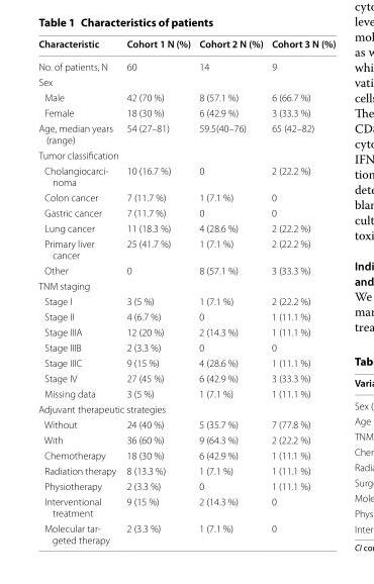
<table><thead><tr><td>Characteristic</td><td>Cohort 1 N (%)</td><td>Cohort 2 N (%)</td><td>Cohort 3 N (%)</td></tr></thead><tbody><tr><td>No. of patients, N</td><td>60</td><td>14</td><td>9</td></tr><tr><td colspan="4">Sex</td></tr><tr><td>Male</td><td>42 (70 %)</td><td>8 (57.1 %)</td><td>6 (66.7 %)</td></tr><tr><td>Female</td><td>18 (30 %)</td><td>6 (42.9 %)</td><td>3 (33.3 %)</td></tr><tr><td>Age, median years (range)</td><td>54 (27–81)</td><td>59.5(40–76)</td><td>65 (42–82)</td></tr><tr><td colspan="4">Tumor classification</td></tr><tr><td>Cholangiocarci- noma</td><td>10 (16.7 %)</td><td>0</td><td>2 (22.2 %)</td></tr><tr><td>Colon cancer</td><td>7 (11.7 %)</td><td>1 (7.1 %)</td><td>0</td></tr><tr><td>Gastric cancer</td><td>7 (11.7 %)</td><td>0</td><td>0</td></tr><tr><td>Lung cancer</td><td>11 (18.3 %)</td><td>4 (28.6 %)</td><td>2 (22.2 %)</td></tr><tr><td>Primary liver cancer</td><td>25 (41.7 %)</td><td>1 (7.1 %)</td><td>2 (22.2 %)</td></tr><tr><td>Other</td><td>0</td><td>8 (57.1 %)</td><td>3 (33.3 %)</td></tr><tr><td colspan="4">TNM staging</td></tr><tr><td>Stage I</td><td>3 (5 %)</td><td>1 (7.1 %)</td><td>2 (22.2 %)</td></tr><tr><td>Stage II</td><td>4 (6.7 %)</td><td>0</td><td>1 (11.1 %)</td></tr><tr><td>Stage IIIA</td><td>12 (20 %)</td><td>2 (14.3 %)</td><td>1 (11.1 %)</td></tr><tr><td>Stage IIIB</td><td>2 (3.3 %)</td><td>0</td><td>0</td></tr><tr><td>Stage IIIC</td><td>9 (15 %)</td><td>4 (28.6 %)</td><td>1 (11.1 %)</td></tr><tr><td>Stage IV</td><td>27 (45 %)</td><td>6 (42.9 %)</td><td>3 (33.3 %)</td></tr><tr><td>Missing data</td><td>3 (5 %)</td><td>1 (7.1 %)</td><td>1 (11.1 %)</td></tr><tr><td colspan="4">Adjuvant therapeutic strategies</td></tr><tr><td>Without</td><td>24 (40 %)</td><td>5 (35.7 %)</td><td>7 (77.8 %)</td></tr><tr><td>With</td><td>36 (60 %)</td><td>9 (64.3 %)</td><td>2 (22.2 %)</td></tr><tr><td>Chemotherapy</td><td>18 (30 %)</td><td>6 (42.9 %)</td><td>1 (11.1 %)</td></tr><tr><td>Radiation therapy</td><td>8 (13.3 %)</td><td>1 (7.1 %)</td><td>1 (11.1 %)</td></tr><tr><td>Physiotherapy</td><td>2 (3.3 %)</td><td>0</td><td>1 (11.1 %)</td></tr><tr><td>Interventional treatment</td><td>9 (15 %)</td><td>2 (14.3 %)</td><td>0</td></tr><tr><td>Molecular tar- geted therapy</td><td>2 (3.3 %)</td><td>1 (7.1 %)</td><td>0</td></tr></tbody></table>